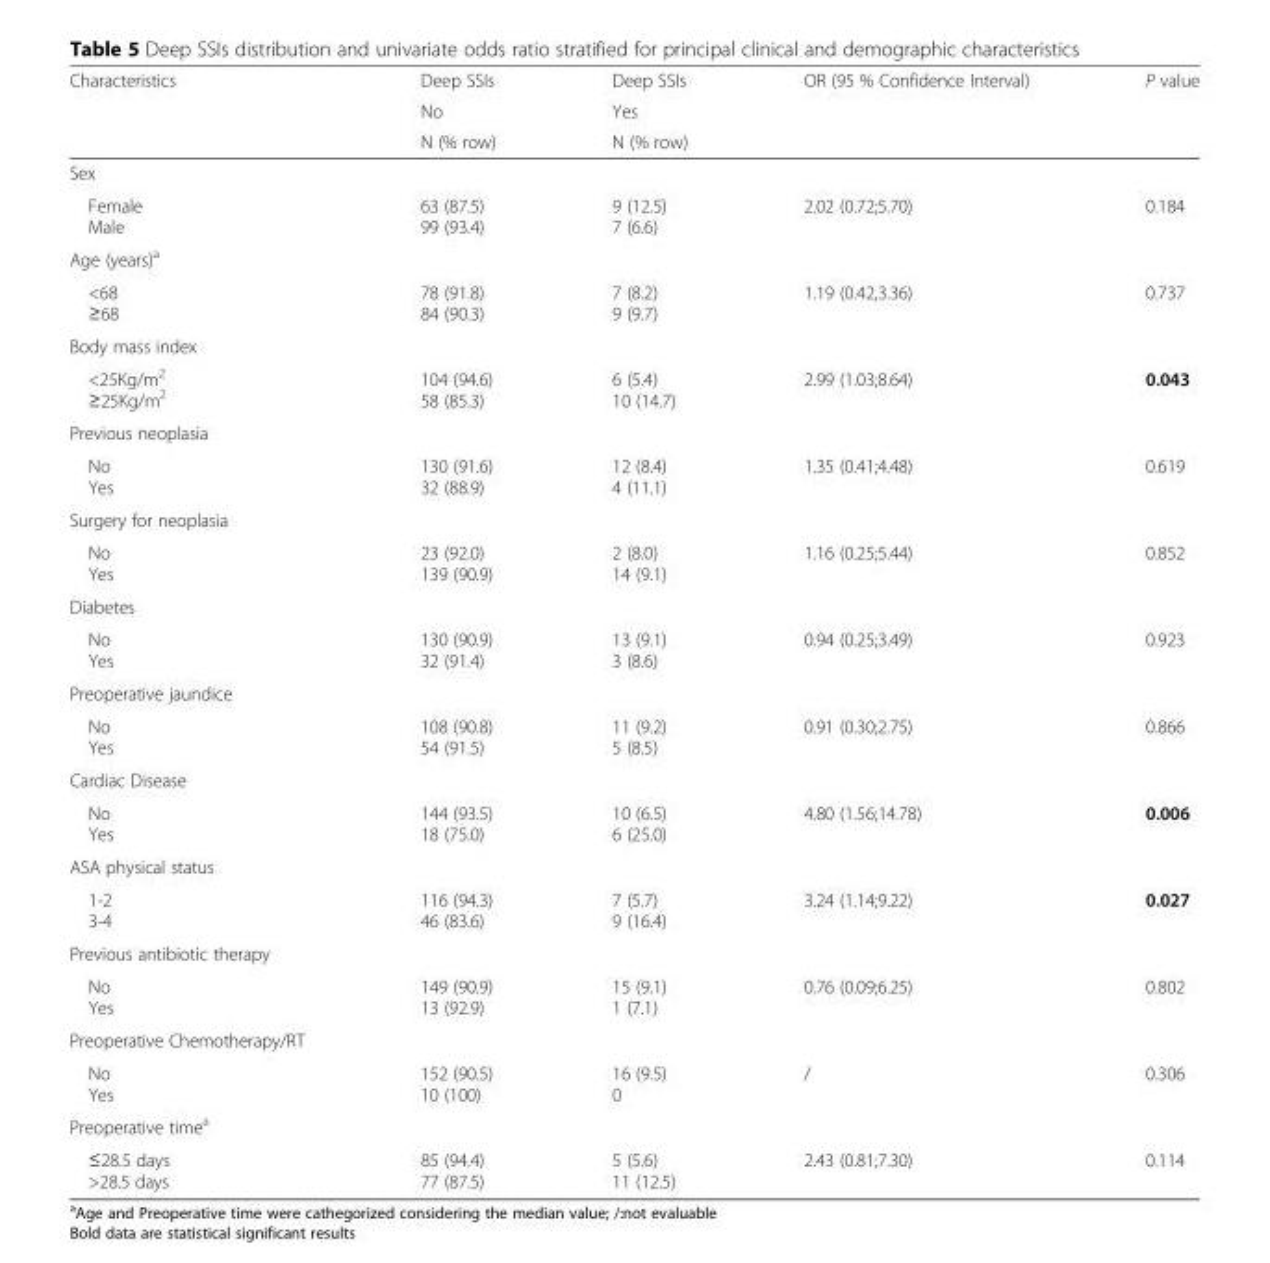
<table><thead><tr><td rowspan="3">Characteristics</td><td rowspan="3">Deep SSIs No N (% row)</td><td rowspan="3">Deep SSIs Yes N (% row)</td><td rowspan="3">OR (95 % Confidence Interval)</td><td rowspan="3">P value</td></tr><tr></tr><tr></tr></thead><tbody><tr><td colspan="5">Sex</td></tr><tr><td>Female Male</td><td>63 (87.5) 99 (93.4)</td><td>9 (12.5) 7 (6.6)</td><td>2.02 (0.72;5.70)</td><td>0.184</td></tr><tr><td colspan="5">Age (years)<sup>a</sup></td></tr><tr><td>&lt;68 ≥68</td><td>78 (91.8) 84 (90.3)</td><td>7 (8.2) 9 (9.7)</td><td>1.19 (0.42,3.36)</td><td>0.737</td></tr><tr><td colspan="5">Body mass index</td></tr><tr><td>&lt;25Kg/m<sup>2</sup> ≥25Kg/m<sup>2</sup></td><td>104 (94.6) 58 (85.3)</td><td>6 (5.4) 10 (14.7)</td><td>2.99 (1.03;8.64)</td><td>0.043</td></tr><tr><td colspan="5">Previous neoplasia</td></tr><tr><td>No Yes</td><td>130 (91.6) 32 (88.9)</td><td>12 (8.4) 4 (11.1)</td><td>1.35 (0.41;4.48)</td><td>0.619</td></tr><tr><td colspan="5">Surgery for neoplasia</td></tr><tr><td>No Yes</td><td>23 (92.0) 139 (90.9)</td><td>2 (8.0) 14 (9.1)</td><td>1.16 (0.25;5.44)</td><td>0.852</td></tr><tr><td colspan="5">Diabetes</td></tr><tr><td>No Yes</td><td>130 (90.9) 32 (91.4)</td><td>13 (9.1) 3 (8.6)</td><td>0.94 (0.25;3.49)</td><td>0.923</td></tr><tr><td colspan="5">Preoperative jaundice</td></tr><tr><td>No Yes</td><td>108 (90.8) 54 (91.5)</td><td>11 (9.2) 5 (8.5)</td><td>0.91 (0.30;2.75)</td><td>0.866</td></tr><tr><td colspan="5">Cardiac Disease</td></tr><tr><td>No Yes</td><td>144 (93.5) 18 (75.0)</td><td>10 (6.5) 6 (25.0)</td><td>4.80 (1.56;14.78)</td><td>0.006</td></tr><tr><td colspan="5">ASA physical status</td></tr><tr><td>1-2 3-4</td><td>116 (94.3) 46 (83.6)</td><td>7 (5.7) 9 (16.4)</td><td>3.24 (1.14;9.22)</td><td>0.027</td></tr><tr><td colspan="5">Previous antibiotic therapy</td></tr><tr><td>No Yes</td><td>149 (90.9) 13 (92.9)</td><td>15 (9.1) 1 (7.1)</td><td>0.76 (0.09;6.25)</td><td>0.802</td></tr><tr><td colspan="5">Preoperative Chemotherapy/RT</td></tr><tr><td>No Yes</td><td>152 (90.5) 10 (100)</td><td>16 (9.5) 0</td><td>/</td><td>0.306</td></tr><tr><td colspan="5">Preoperative time<sup>a</sup></td></tr><tr><td>≤28.5 days &gt;28.5 days</td><td>85 (94.4) 77 (87.5)</td><td>5 (5.6) 11 (12.5)</td><td>2.43 (0.81;7.30)</td><td>0.114</td></tr></tbody></table>